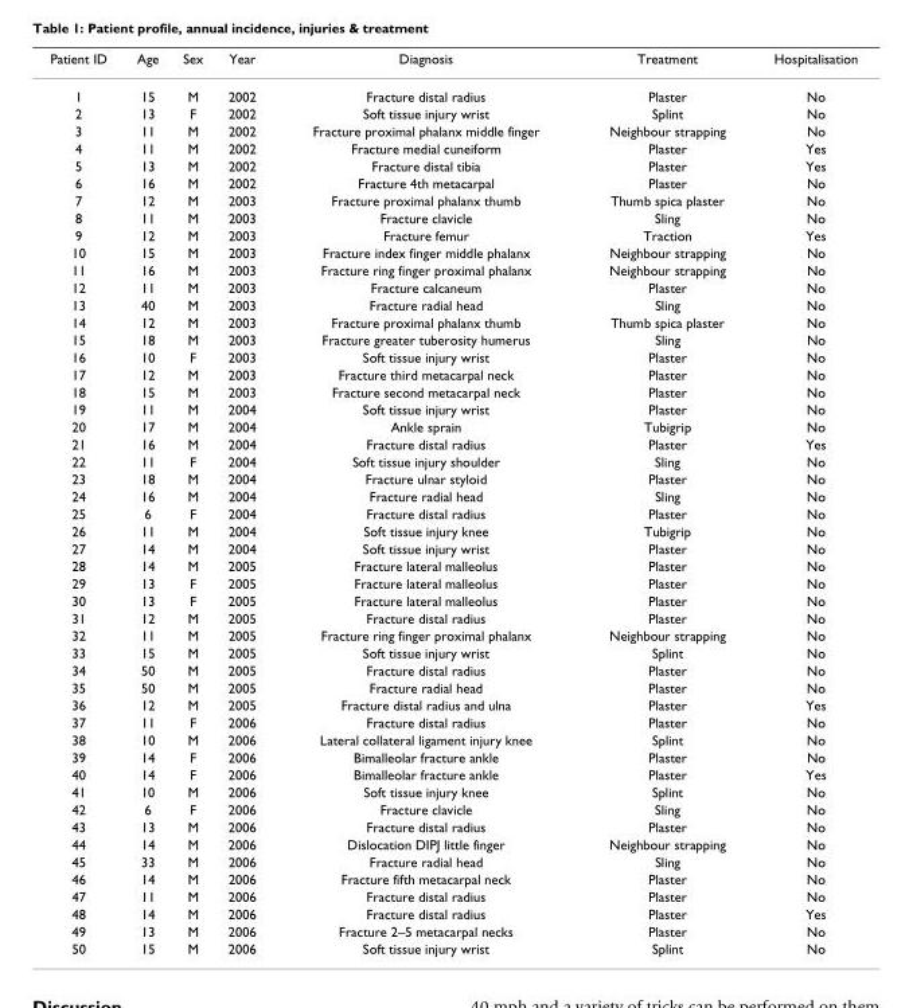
<table><thead><tr><td>Patient ID</td><td>Age</td><td>Sex</td><td>Year</td><td>Diagnosis</td><td>Treatment</td><td>Hospitalisation</td></tr></thead><tbody><tr><td>1</td><td>15</td><td>M</td><td>2002</td><td>Fracture distal radius</td><td>Plaster</td><td>No</td></tr><tr><td>2</td><td>13</td><td>F</td><td>2002</td><td>Soft tissue injury wrist</td><td>Splint</td><td>No</td></tr><tr><td>3</td><td>11</td><td>M</td><td>2002</td><td>Fracture proximal phalanx middle finger</td><td>Neighbour strapping</td><td>No</td></tr><tr><td>4</td><td>11</td><td>M</td><td>2002</td><td>Fracture medial cuneiform</td><td>Plaster</td><td>Yes</td></tr><tr><td>5</td><td>13</td><td>M</td><td>2002</td><td>Fracture distal tibia</td><td>Plaster</td><td>Yes</td></tr><tr><td>6</td><td>16</td><td>M</td><td>2002</td><td>Fracture 4th metacarpal</td><td>Plaster</td><td>No</td></tr><tr><td>7</td><td>12</td><td>M</td><td>2003</td><td>Fracture proximal phalanx thumb</td><td>Thumb spica plaster</td><td>No</td></tr><tr><td>8</td><td>11</td><td>M</td><td>2003</td><td>Fracture clavicle</td><td>Sling</td><td>No</td></tr><tr><td>9</td><td>12</td><td>M</td><td>2003</td><td>Fracture femur</td><td>Traction</td><td>Yes</td></tr><tr><td>10</td><td>15</td><td>M</td><td>2003</td><td>Fracture index finger middle phalanx</td><td>Neighbour strapping</td><td>No</td></tr><tr><td>11</td><td>16</td><td>M</td><td>2003</td><td>Fracture ring finger proximal phalanx</td><td>Neighbour strapping</td><td>No</td></tr><tr><td>12</td><td>11</td><td>M</td><td>2003</td><td>Fracture calcaneum</td><td>Plaster</td><td>No</td></tr><tr><td>13</td><td>40</td><td>M</td><td>2003</td><td>Fracture radial head</td><td>Sling</td><td>No</td></tr><tr><td>14</td><td>12</td><td>M</td><td>2003</td><td>Fracture proximal phalanx thumb</td><td>Thumb spica plaster</td><td>No</td></tr><tr><td>15</td><td>18</td><td>M</td><td>2003</td><td>Fracture greater tuberosity humerus</td><td>Sling</td><td>No</td></tr><tr><td>16</td><td>10</td><td>F</td><td>2003</td><td>Soft tissue injury wrist</td><td>Plaster</td><td>No</td></tr><tr><td>17</td><td>12</td><td>M</td><td>2003</td><td>Fracture third metacarpal neck</td><td>Plaster</td><td>No</td></tr><tr><td>18</td><td>15</td><td>M</td><td>2003</td><td>Fracture second metacarpal neck</td><td>Plaster</td><td>No</td></tr><tr><td>19</td><td>11</td><td>M</td><td>2004</td><td>Soft tissue injury wrist</td><td>Plaster</td><td>No</td></tr><tr><td>20</td><td>17</td><td>M</td><td>2004</td><td>Ankle sprain</td><td>Tubigrip</td><td>No</td></tr><tr><td>21</td><td>16</td><td>M</td><td>2004</td><td>Fracture distal radius</td><td>Plaster</td><td>Yes</td></tr><tr><td>22</td><td>11</td><td>F</td><td>2004</td><td>Soft tissue injury shoulder</td><td>Sling</td><td>No</td></tr><tr><td>23</td><td>18</td><td>M</td><td>2004</td><td>Fracture ulnar styloid</td><td>Plaster</td><td>No</td></tr><tr><td>24</td><td>16</td><td>M</td><td>2004</td><td>Fracture radial head</td><td>Sling</td><td>No</td></tr><tr><td>25</td><td>6</td><td>F</td><td>2004</td><td>Fracture distal radius</td><td>Plaster</td><td>No</td></tr><tr><td>26</td><td>11</td><td>M</td><td>2004</td><td>Soft tissue injury knee</td><td>Tubigrip</td><td>No</td></tr><tr><td>27</td><td>14</td><td>M</td><td>2004</td><td>Soft tissue injury wrist</td><td>Plaster</td><td>No</td></tr><tr><td>28</td><td>14</td><td>M</td><td>2005</td><td>Fracture lateral malleolus</td><td>Plaster</td><td>No</td></tr><tr><td>29</td><td>13</td><td>F</td><td>2005</td><td>Fracture lateral malleolus</td><td>Plaster</td><td>No</td></tr><tr><td>30</td><td>13</td><td>F</td><td>2005</td><td>Fracture lateral malleolus</td><td>Plaster</td><td>No</td></tr><tr><td>31</td><td>12</td><td>M</td><td>2005</td><td>Fracture distal radius</td><td>Plaster</td><td>No</td></tr><tr><td>32</td><td>11</td><td>M</td><td>2005</td><td>Fracture ring finger proximal phalanx</td><td>Neighbour strapping</td><td>No</td></tr><tr><td>33</td><td>15</td><td>M</td><td>2005</td><td>Soft tissue injury wrist</td><td>Splint</td><td>No</td></tr><tr><td>34</td><td>50</td><td>M</td><td>2005</td><td>Fracture distal radius</td><td>Plaster</td><td>No</td></tr><tr><td>35</td><td>50</td><td>M</td><td>2005</td><td>Fracture radial head</td><td>Plaster</td><td>No</td></tr><tr><td>36</td><td>12</td><td>M</td><td>2005</td><td>Fracture distal radius and ulna</td><td>Plaster</td><td>Yes</td></tr><tr><td>37</td><td>11</td><td>F</td><td>2006</td><td>Fracture distal radius</td><td>Plaster</td><td>No</td></tr><tr><td>38</td><td>10</td><td>M</td><td>2006</td><td>Lateral collateral ligament injury knee</td><td>Splint</td><td>No</td></tr><tr><td>39</td><td>14</td><td>F</td><td>2006</td><td>Bimalleolar fracture ankle</td><td>Plaster</td><td>No</td></tr><tr><td>40</td><td>14</td><td>F</td><td>2006</td><td>Bimalleolar fracture ankle</td><td>Plaster</td><td>Yes</td></tr><tr><td>41</td><td>10</td><td>M</td><td>2006</td><td>Soft tissue injury knee</td><td>Splint</td><td>No</td></tr><tr><td>42</td><td>6</td><td>F</td><td>2006</td><td>Fracture clavicle</td><td>Sling</td><td>No</td></tr><tr><td>43</td><td>13</td><td>M</td><td>2006</td><td>Fracture distal radius</td><td>Plaster</td><td>No</td></tr><tr><td>44</td><td>14</td><td>M</td><td>2006</td><td>Dislocation DIPJ little finger</td><td>Neighbour strapping</td><td>No</td></tr><tr><td>45</td><td>33</td><td>M</td><td>2006</td><td>Fracture radial head</td><td>Sling</td><td>No</td></tr><tr><td>46</td><td>14</td><td>M</td><td>2006</td><td>Fracture fifth metacarpal neck</td><td>Plaster</td><td>No</td></tr><tr><td>47</td><td>11</td><td>M</td><td>2006</td><td>Fracture distal radius</td><td>Plaster</td><td>No</td></tr><tr><td>48</td><td>14</td><td>M</td><td>2006</td><td>Fracture distal radius</td><td>Plaster</td><td>Yes</td></tr><tr><td>49</td><td>13</td><td>M</td><td>2006</td><td>Fracture 2–5 metacarpal necks</td><td>Plaster</td><td>No</td></tr><tr><td>50</td><td>15</td><td>M</td><td>2006</td><td>Soft tissue injury wrist</td><td>Splint</td><td>No</td></tr></tbody></table>